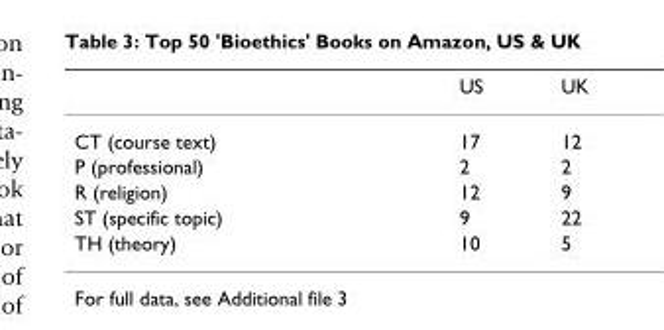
<table><thead><tr><td></td><td>US</td><td>UK</td></tr></thead><tbody><tr><td>CT (course text)</td><td>17</td><td>12</td></tr><tr><td>P (professional)</td><td>2</td><td>2</td></tr><tr><td>R (religion)</td><td>12</td><td>9</td></tr><tr><td>ST (specific topic)</td><td>9</td><td>22</td></tr><tr><td>TH (theory)</td><td>10</td><td>5</td></tr></tbody></table>